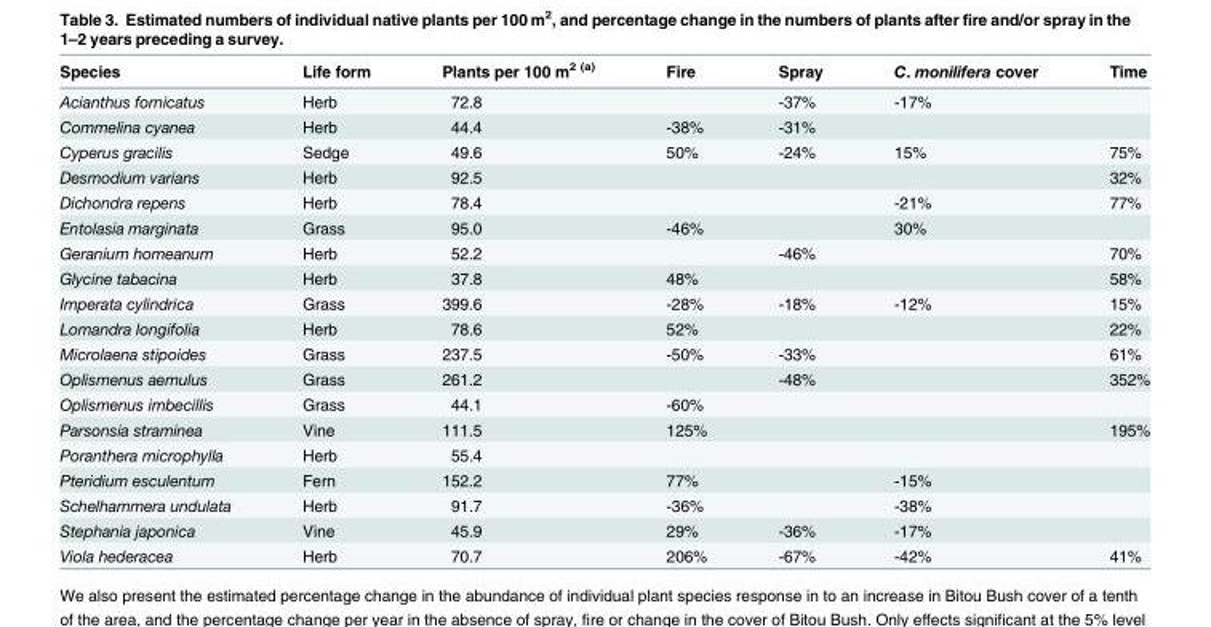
<table><thead><tr><td>Species</td><td>Life form</td><td>Plants per 100 m<sup>2 (a)</sup></td><td>Fire</td><td>Spray</td><td>C. monilifera cover</td><td>Time</td></tr></thead><tbody><tr><td>Acianthus fornicatus</td><td>Herb</td><td>72.8</td><td></td><td>-37%</td><td>-17%</td><td></td></tr><tr><td>Commelina cyanea</td><td>Herb</td><td>44.4</td><td>-38%</td><td>-31%</td><td></td><td></td></tr><tr><td>Cyperus gracilis</td><td>Sedge</td><td>49.6</td><td>50%</td><td>-24%</td><td>15%</td><td>75%</td></tr><tr><td>Desmodium varians</td><td>Herb</td><td>92.5</td><td></td><td></td><td></td><td>32%</td></tr><tr><td>Dichondra repens</td><td>Herb</td><td>78.4</td><td></td><td></td><td>-21%</td><td>77%</td></tr><tr><td>Entolasia marginata</td><td>Grass</td><td>95.0</td><td>-46%</td><td></td><td>30%</td><td></td></tr><tr><td>Geranium homeanum</td><td>Herb</td><td>52.2</td><td></td><td>-46%</td><td></td><td>70%</td></tr><tr><td>Glycine tabacina</td><td>Herb</td><td>37.8</td><td>48%</td><td></td><td></td><td>58%</td></tr><tr><td>Imperata cylindrica</td><td>Grass</td><td>399.6</td><td>-28%</td><td>-18%</td><td>-12%</td><td>15%</td></tr><tr><td>Lomandra longifolia</td><td>Herb</td><td>78.6</td><td>52%</td><td></td><td></td><td>22%</td></tr><tr><td>Microlaena stipoides</td><td>Grass</td><td>237.5</td><td>-50%</td><td>-33%</td><td></td><td>61%</td></tr><tr><td>Oplismenus aemulus</td><td>Grass</td><td>261.2</td><td></td><td>-48%</td><td></td><td>352%</td></tr><tr><td>Oplismenus imbecillis</td><td>Grass</td><td>44.1</td><td>-60%</td><td></td><td></td><td></td></tr><tr><td>Parsonsia straminea</td><td>Vine</td><td>111.5</td><td>125%</td><td></td><td></td><td>195%</td></tr><tr><td>Poranthera microphylla</td><td>Herb</td><td>55.4</td><td></td><td></td><td></td><td></td></tr><tr><td>Pteridium esculentum</td><td>Fern</td><td>152.2</td><td>77%</td><td></td><td>-15%</td><td></td></tr><tr><td>Schelhammera undulata</td><td>Herb</td><td>91.7</td><td>-36%</td><td></td><td>-38%</td><td></td></tr><tr><td>Stephania japonica</td><td>Vine</td><td>45.9</td><td>29%</td><td>-36%</td><td>-17%</td><td></td></tr><tr><td>Viola hederacea</td><td>Herb</td><td>70.7</td><td>206%</td><td>-67%</td><td>-42%</td><td>41%</td></tr></tbody></table>